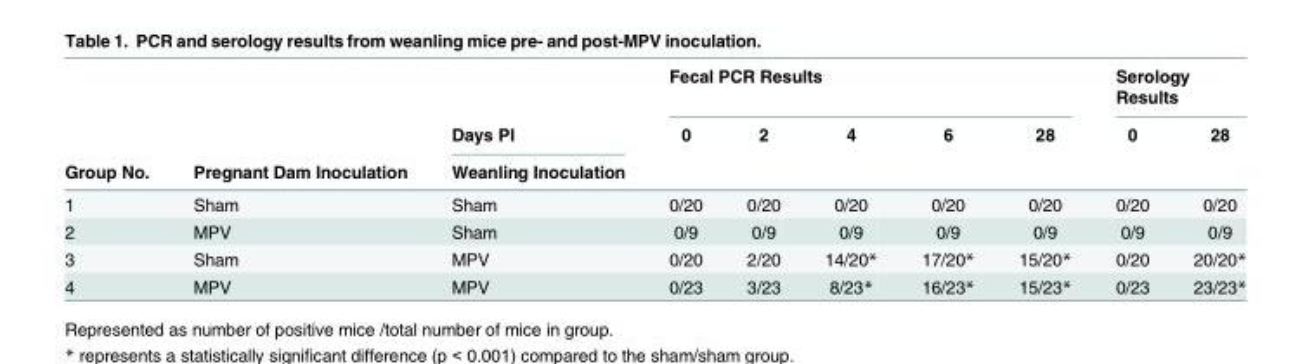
<table><thead><tr><td rowspan="3">Group No.</td><td rowspan="3">Pregnant Dam Inoculation</td><td rowspan="3">Days PI Weanling Inoculation</td><td colspan="5">Fecal PCR Results</td><td colspan="2">Serology Results</td></tr><tr><td rowspan="2">0</td><td rowspan="2">2</td><td rowspan="2">4</td><td rowspan="2">6</td><td rowspan="2">28</td><td rowspan="2">0</td><td rowspan="2">28</td></tr><tr></tr></thead><tbody><tr><td>1</td><td>Sham</td><td>Sham</td><td>0/20</td><td>0/20</td><td>0/20</td><td>0/20</td><td>0/20</td><td>0/20</td><td>0/20</td></tr><tr><td>2</td><td>MPV</td><td>Sham</td><td>0/9</td><td>0/9</td><td>0/9</td><td>0/9</td><td>0/9</td><td>0/9</td><td>0/9</td></tr><tr><td>3</td><td>Sham</td><td>MPV</td><td>0/20</td><td>2/20</td><td>14/20*</td><td>17/20*</td><td>15/20*</td><td>0/20</td><td>20/20*</td></tr><tr><td>4</td><td>MPV</td><td>MPV</td><td>0/23</td><td>3/23</td><td>8/23*</td><td>16/23*</td><td>15/23*</td><td>0/23</td><td>23/23*</td></tr></tbody></table>